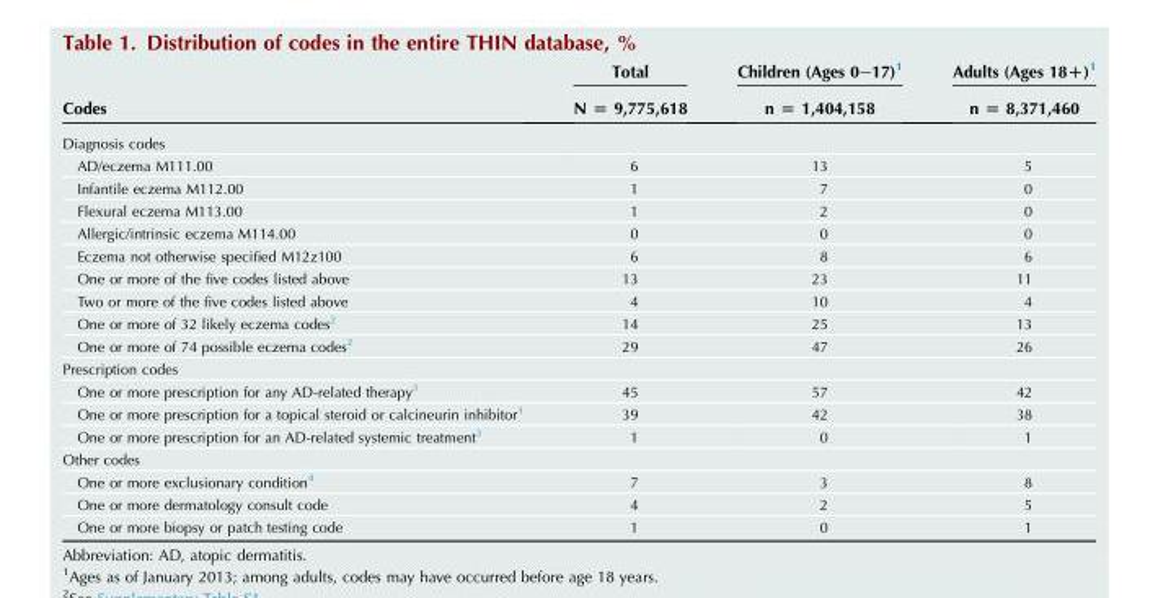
<table><thead><tr><td rowspan="2">Codes</td><td rowspan="2">Total N = 9,775,618</td><td rowspan="2">Children (Ages 0–17)<sup>1</sup> n = 1,404,158</td><td rowspan="2">Adults (Ages 18+)<sup>1</sup> n = 8,371,460</td></tr><tr></tr></thead><tbody><tr><td colspan="4">Diagnosis codes</td></tr><tr><td>AD/eczema M111.00</td><td>6</td><td>13</td><td>5</td></tr><tr><td>Infantile eczema M112.00</td><td>1</td><td>7</td><td>0</td></tr><tr><td>Flexural eczema M113.00</td><td>1</td><td>2</td><td>0</td></tr><tr><td>Allergic/intrinsic eczema M114.00</td><td>0</td><td>0</td><td>0</td></tr><tr><td>Eczema not otherwise specified M12z100</td><td>6</td><td>8</td><td>6</td></tr><tr><td>One or more of the five codes listed above</td><td>13</td><td>23</td><td>11</td></tr><tr><td>Two or more of the five codes listed above</td><td>4</td><td>10</td><td>4</td></tr><tr><td>One or more of 32 likely eczema codes<sup>2</sup></td><td>14</td><td>25</td><td>13</td></tr><tr><td>One or more of 74 possible eczema codes<sup>2</sup></td><td>29</td><td>47</td><td>26</td></tr><tr><td colspan="4">Prescription codes</td></tr><tr><td>One or more prescription for any AD-related therapy<sup>3</sup></td><td>45</td><td>57</td><td>42</td></tr><tr><td>One or more prescription for a topical steroid or calcineurin inhibitor<sup>3</sup></td><td>39</td><td>42</td><td>38</td></tr><tr><td>One or more prescription for an AD-related systemic treatment<sup>3</sup></td><td>1</td><td>0</td><td>1</td></tr><tr><td colspan="4">Other codes</td></tr><tr><td>One or more exclusionary condition<sup>4</sup></td><td>7</td><td>3</td><td>8</td></tr><tr><td>One or more dermatology consult code</td><td>4</td><td>2</td><td>5</td></tr><tr><td>One or more biopsy or patch testing code</td><td>1</td><td>0</td><td>1</td></tr></tbody></table>